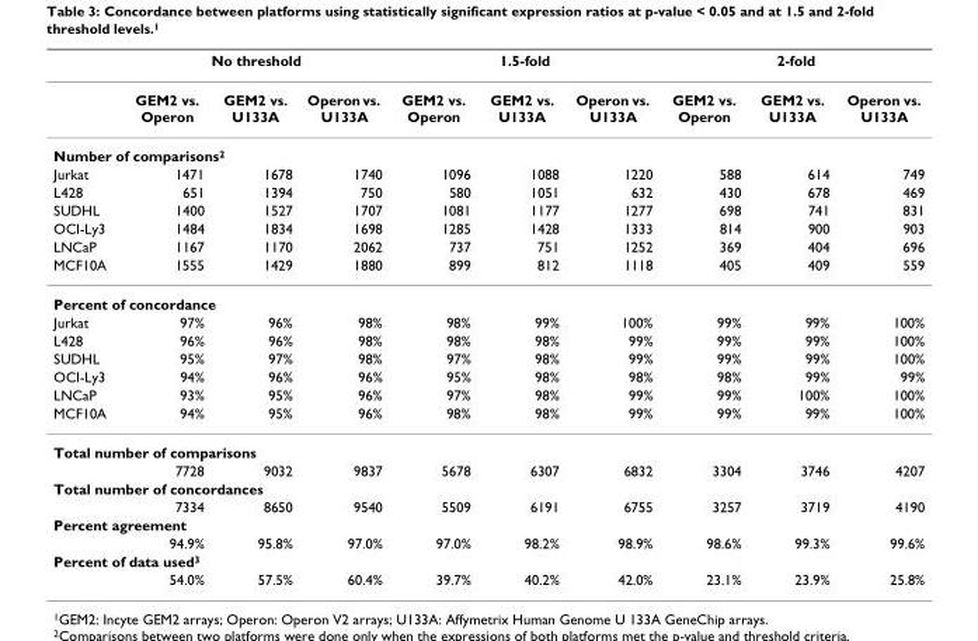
<table><thead><tr><td rowspan="2"></td><td colspan="3">No threshold</td><td colspan="3">1.5-fold</td><td colspan="3">2-fold</td></tr><tr><td>GEM2 vs. Operon</td><td>GEM2 vs. U133A</td><td>Operon vs. U133A</td><td>GEM2 vs. Operon</td><td>GEM2 vs. U133A</td><td>Operon vs. U133A</td><td>GEM2 vs. Operon</td><td>GEM2 vs. U133A</td><td>Operon vs. U133A</td></tr></thead><tbody><tr><td colspan="10">Number of comparisons<sup>2</sup></td></tr><tr><td>Jurkat</td><td>1471</td><td>1678</td><td>1740</td><td>1096</td><td>1088</td><td>1220</td><td>588</td><td>614</td><td>749</td></tr><tr><td>L428</td><td>651</td><td>1394</td><td>750</td><td>580</td><td>1051</td><td>632</td><td>430</td><td>678</td><td>469</td></tr><tr><td>SUDHL</td><td>1400</td><td>1527</td><td>1707</td><td>1081</td><td>1177</td><td>1277</td><td>698</td><td>741</td><td>831</td></tr><tr><td>OCI-Ly3</td><td>1484</td><td>1834</td><td>1698</td><td>1285</td><td>1428</td><td>1333</td><td>814</td><td>900</td><td>903</td></tr><tr><td>LNCaP</td><td>1167</td><td>1170</td><td>2062</td><td>737</td><td>751</td><td>1252</td><td>369</td><td>404</td><td>696</td></tr><tr><td>MCF10A</td><td>1555</td><td>1429</td><td>1880</td><td>899</td><td>812</td><td>1118</td><td>405</td><td>409</td><td>559</td></tr><tr><td colspan="10">Percent of concordance</td></tr><tr><td>Jurkat</td><td>97%</td><td>96%</td><td>98%</td><td>98%</td><td>99%</td><td>100%</td><td>99%</td><td>99%</td><td>100%</td></tr><tr><td>L428</td><td>96%</td><td>96%</td><td>98%</td><td>98%</td><td>98%</td><td>99%</td><td>99%</td><td>99%</td><td>100%</td></tr><tr><td>SUDHL</td><td>95%</td><td>97%</td><td>98%</td><td>97%</td><td>98%</td><td>99%</td><td>99%</td><td>99%</td><td>100%</td></tr><tr><td>OCI-Ly3</td><td>94%</td><td>96%</td><td>96%</td><td>95%</td><td>98%</td><td>98%</td><td>98%</td><td>99%</td><td>99%</td></tr><tr><td>LNCaP</td><td>93%</td><td>95%</td><td>96%</td><td>97%</td><td>98%</td><td>99%</td><td>99%</td><td>100%</td><td>100%</td></tr><tr><td>MCF10A</td><td>94%</td><td>95%</td><td>96%</td><td>98%</td><td>98%</td><td>99%</td><td>99%</td><td>99%</td><td>100%</td></tr><tr><td colspan="10">Total number of comparisons</td></tr><tr><td></td><td>7728</td><td>9032</td><td>9837</td><td>5678</td><td>6307</td><td>6832</td><td>3304</td><td>3746</td><td>4207</td></tr><tr><td colspan="10">Total number of concordances</td></tr><tr><td></td><td>7334</td><td>8650</td><td>9540</td><td>5509</td><td>6191</td><td>6755</td><td>3257</td><td>3719</td><td>4190</td></tr><tr><td colspan="10">Percent agreement</td></tr><tr><td></td><td>94.9%</td><td>95.8%</td><td>97.0%</td><td>97.0%</td><td>98.2%</td><td>98.9%</td><td>98.6%</td><td>99.3%</td><td>99.6%</td></tr><tr><td colspan="10">Percent of data used<sup>3</sup></td></tr><tr><td></td><td>54.0%</td><td>57.5%</td><td>60.4%</td><td>39.7%</td><td>40.2%</td><td>42.0%</td><td>23.1%</td><td>23.9%</td><td>25.8%</td></tr></tbody></table>